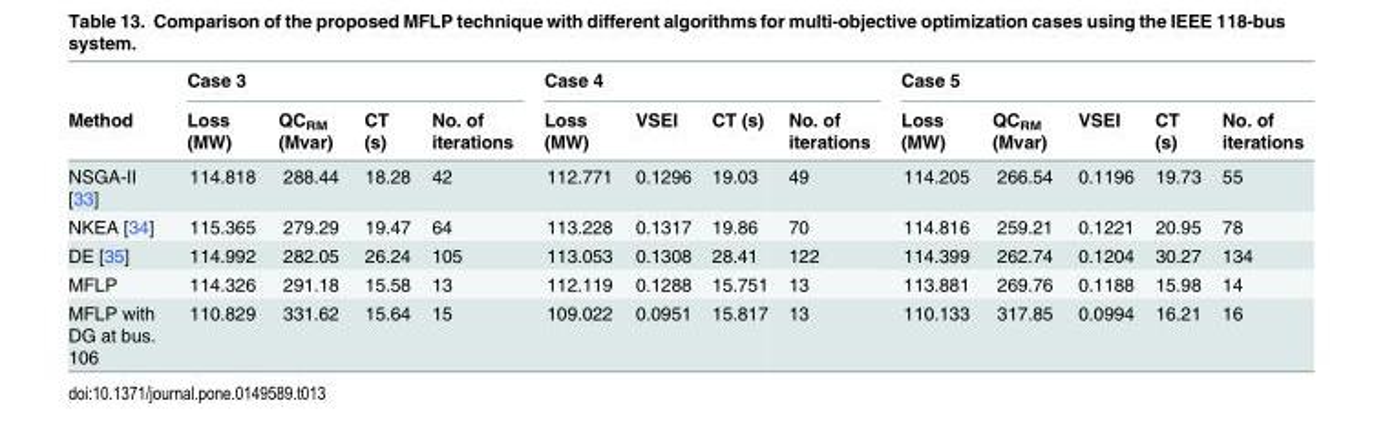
<table><thead><tr><td rowspan="2">Method</td><td colspan="4">Case 3</td><td colspan="4">Case 4</td><td colspan="5">Case 5</td></tr><tr><td>Loss (MW)</td><td>QC<sub>RM</sub> (Mvar)</td><td>CT (s)</td><td>No. of iterations</td><td>Loss (MW)</td><td>VSEI</td><td>CT (s)</td><td>No. of iterations</td><td>Loss (MW)</td><td>QC<sub>RM</sub> (Mvar)</td><td>VSEI</td><td>CT (s)</td><td>No. of iterations</td></tr></thead><tbody><tr><td>NSGA-II [33]</td><td>114.818</td><td>288.44</td><td>18.28</td><td>42</td><td>112.771</td><td>0.1296</td><td>19.03</td><td>49</td><td>114.205</td><td>266.54</td><td>0.1196</td><td>19.73</td><td>55</td></tr><tr><td>NKEA [34]</td><td>115.365</td><td>279.29</td><td>19.47</td><td>64</td><td>113.228</td><td>0.1317</td><td>19.86</td><td>70</td><td>114.816</td><td>259.21</td><td>0.1221</td><td>20.95</td><td>78</td></tr><tr><td>DE [35]</td><td>114.992</td><td>282.05</td><td>26.24</td><td>105</td><td>113.053</td><td>0.1308</td><td>28.41</td><td>122</td><td>114.399</td><td>262.74</td><td>0.1204</td><td>30.27</td><td>134</td></tr><tr><td>MFLP</td><td>114.326</td><td>291.18</td><td>15.58</td><td>13</td><td>112.119</td><td>0.1288</td><td>15.751</td><td>13</td><td>113.881</td><td>269.76</td><td>0.1188</td><td>15.98</td><td>14</td></tr><tr><td>MFLP with DG at bus. 106</td><td>110.829</td><td>331.62</td><td>15.64</td><td>15</td><td>109.022</td><td>0.0951</td><td>15.817</td><td>13</td><td>110.133</td><td>317.85</td><td>0.0994</td><td>16.21</td><td>16</td></tr></tbody></table>